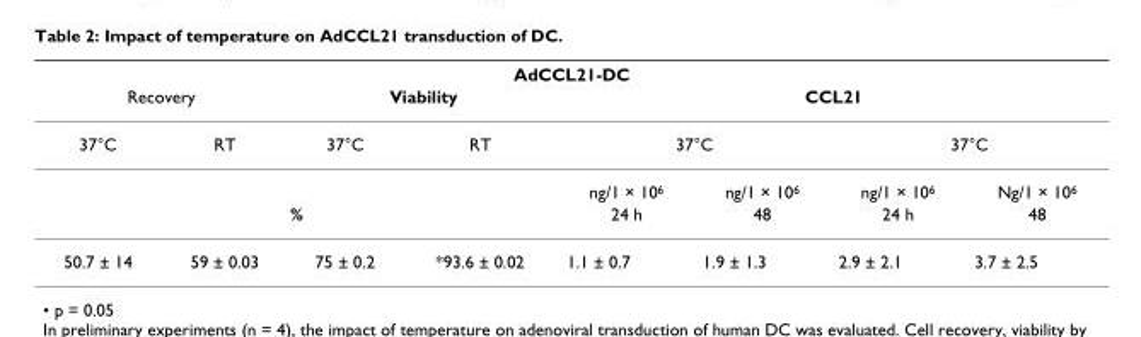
<table><thead><tr><td colspan="8">AdCCL21-DC</td></tr><tr><td colspan="2">Recovery</td><td colspan="2">Viability</td><td colspan="4">CCL21</td></tr><tr><td rowspan="2">37°C</td><td rowspan="2">RT</td><td rowspan="2">37°C</td><td rowspan="2">RT</td><td colspan="2">37°C</td><td colspan="2">37°C</td></tr><tr><td>ng/1 × 10<sup>6</sup></td><td>ng/1 × 10<sup>6</sup></td><td>ng/1 × 10<sup>6</sup></td><td>Ng/1 × 10<sup>6</sup></td></tr></thead><tbody><tr><td colspan="4">%</td><td>24 h</td><td>48</td><td>24 h</td><td>48</td></tr><tr><td>50.7 ± 14</td><td>59 ± 0.03</td><td>75 ± 0.2</td><td>*93.6 ± 0.02</td><td>1.1 ± 0.7</td><td>1.9 ± 1.3</td><td>2.9 ± 2.1</td><td>3.7 ± 2.5</td></tr></tbody></table>